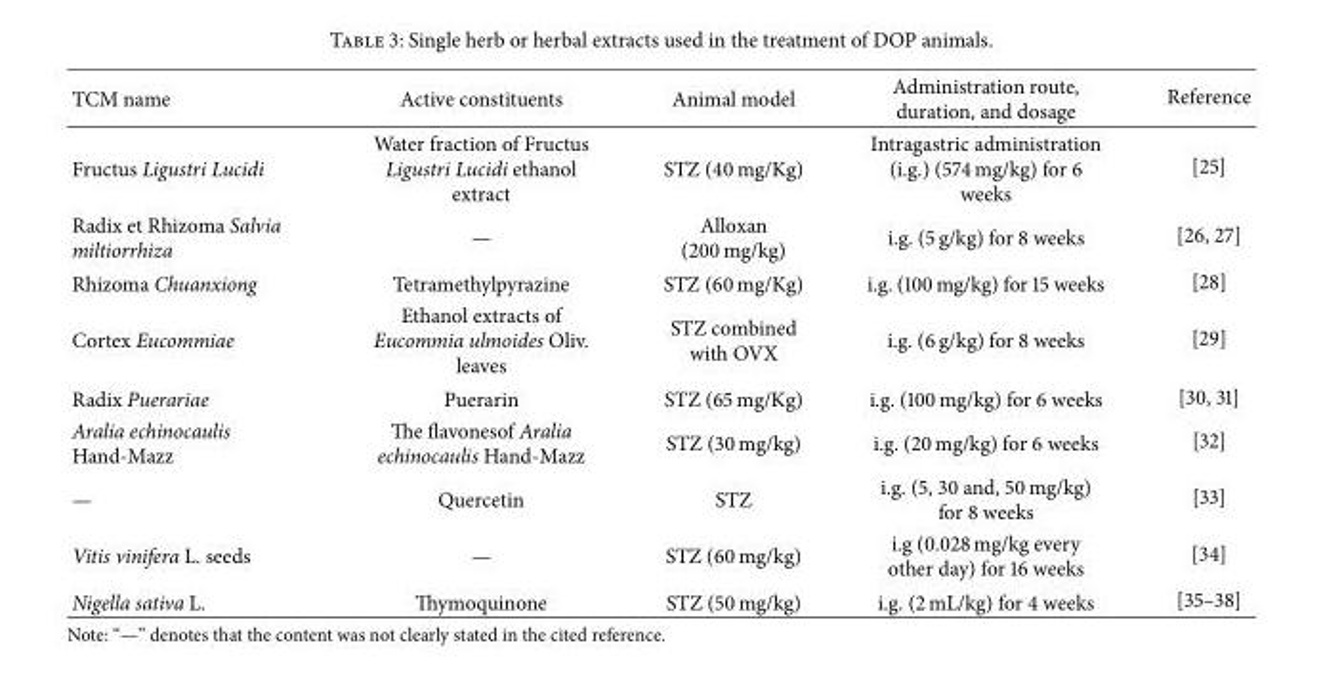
<table><thead><tr><td>TCM name</td><td>Active constituents</td><td>Animal model</td><td>Administration route, duration, and dosage</td><td>Reference</td></tr></thead><tbody><tr><td>Fructus Ligustri Lucidi</td><td>Water fraction of Fructus Ligustri Lucidi ethanol extract</td><td>STZ (40 mg/Kg)</td><td>Intragastric administration (i.g.) (574 mg/kg) for 6 weeks</td><td>[25]</td></tr><tr><td>Radix et Rhizoma Salvia miltiorrhiza</td><td>—</td><td>Alloxan (200 mg/kg)</td><td>i.g. (5 g/kg) for 8 weeks</td><td>[26, 27]</td></tr><tr><td>Rhizoma Chuanxiong</td><td>Tetramethylpyrazine</td><td>STZ (60 mg/Kg)</td><td>i.g. (100 mg/kg) for 15 weeks</td><td>[28]</td></tr><tr><td>Cortex Eucommiae</td><td>Ethanol extracts of Eucommia ulmoides Oliv. leaves</td><td>STZ combined with OVX</td><td>i.g. (6 g/kg) for 8 weeks</td><td>[29]</td></tr><tr><td>Radix Puerariae</td><td>Puerarin</td><td>STZ (65 mg/Kg)</td><td>i.g. (100 mg/kg) for 6 weeks</td><td>[30, 31]</td></tr><tr><td>Aralia echinocaulis Hand-Mazz</td><td>The flavonesof Aralia echinocaulis Hand-Mazz</td><td>STZ (30 mg/kg)</td><td>i.g. (20 mg/kg) for 6 weeks</td><td>[32]</td></tr><tr><td>—</td><td>Quercetin</td><td>STZ</td><td>i.g. (5, 30 and, 50 mg/kg) for 8 weeks</td><td>[33]</td></tr><tr><td>Vitis vinifera L. seeds</td><td>—</td><td>STZ (60 mg/kg)</td><td>i.g (0.028 mg/kg every other day) for 16 weeks</td><td>[34]</td></tr><tr><td>Nigella sativa L.</td><td>Thymoquinone</td><td>STZ (50 mg/kg)</td><td>i.g. (2 mL/kg) for 4 weeks</td><td>[35–38]</td></tr></tbody></table>